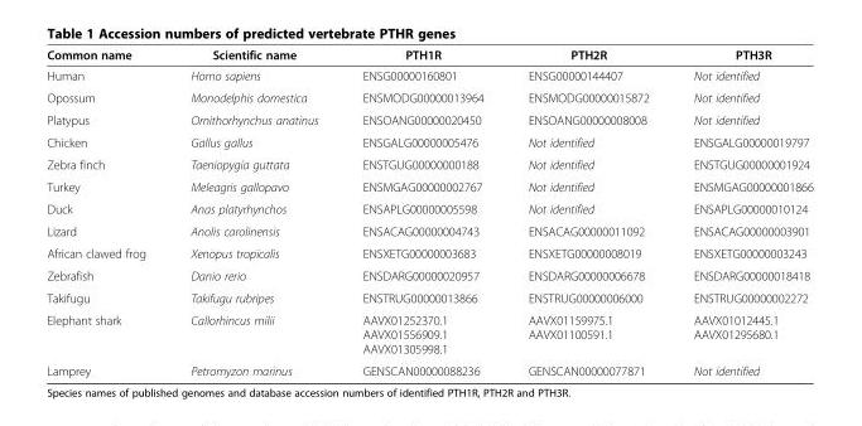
<table><thead><tr><td>Common name</td><td>Scientific name</td><td>PTH1R</td><td>PTH2R</td><td>PTH3R</td></tr></thead><tbody><tr><td>Human</td><td>Homo sapiens</td><td>ENSG00000160801</td><td>ENSG00000144407</td><td>Not identified</td></tr><tr><td>Opossum</td><td>Monodelphis domestica</td><td>ENSMODG00000013964</td><td>ENSMODG00000015872</td><td>Not identified</td></tr><tr><td>Platypus</td><td>Ornithorhynchus anatinus</td><td>ENSOANG00000020450</td><td>ENSOANG00000008008</td><td>Not identified</td></tr><tr><td>Chicken</td><td>Gallus gallus</td><td>ENSGALG00000005476</td><td>Not identified</td><td>ENSGALG00000019797</td></tr><tr><td>Zebra finch</td><td>Taeniopygia guttata</td><td>ENSTGUG00000000188</td><td>Not identified</td><td>ENSTGUG00000001924</td></tr><tr><td>Turkey</td><td>Meleagris gallopavo</td><td>ENSMGAG00000002767</td><td>Not identified</td><td>ENSMGAG00000001866</td></tr><tr><td>Duck</td><td>Anas platyrhynchos</td><td>ENSAPLG00000005598</td><td>Not identified</td><td>ENSAPLG00000010124</td></tr><tr><td>Lizard</td><td>Anolis carolinensis</td><td>ENSACAG00000004743</td><td>ENSACAG00000011092</td><td>ENSACAG00000003901</td></tr><tr><td>African clawed frog</td><td>Xenopus tropicalis</td><td>ENSXETG00000003683</td><td>ENSXETG00000008019</td><td>ENSXETG00000003243</td></tr><tr><td>Zebrafish</td><td>Danio rerio</td><td>ENSDARG00000020957</td><td>ENSDARG00000006678</td><td>ENSDARG00000018418</td></tr><tr><td>Takifugu</td><td>Takifugu rubripes</td><td>ENSTRUG00000013866</td><td>ENSTRUG00000006000</td><td>ENSTRUG00000002272</td></tr><tr><td>Elephant shark</td><td>Callorhincus milii</td><td>AAVX01252370.1 AAVX01556909.1 AAVX01305998.1</td><td>AAVX01159975.1 AAVX01100591.1</td><td>AAVX01012445.1 AAVX01295680.1</td></tr><tr><td>Lamprey</td><td>Petromyzon marinus</td><td>GENSCAN00000088236</td><td>GENSCAN00000077871</td><td>Not identified</td></tr></tbody></table>